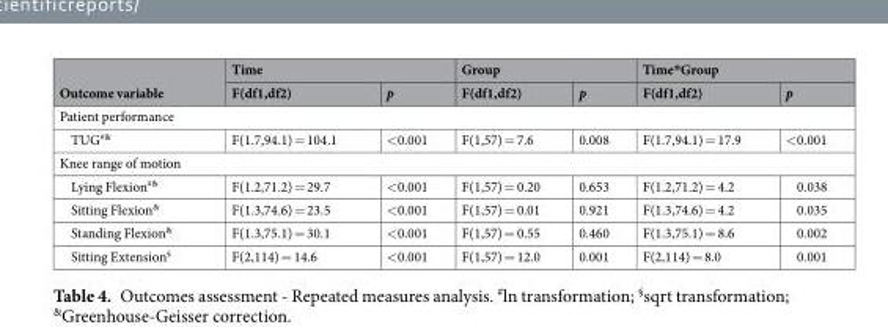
<table><thead><tr><td rowspan="2">Outcome variable</td><td colspan="2">Time</td><td colspan="2">Group</td><td colspan="2">Time*Group</td></tr><tr><td>F(df1,df2)</td><td>p</td><td>F(df1,df2)</td><td>p</td><td>F(df1,df2)</td><td>p</td></tr></thead><tbody><tr><td colspan="7">Patient performance</td></tr><tr><td>TUG<sup>#&amp;</sup></td><td>F(1.7,94.1) = 104.1</td><td>&lt;0.001</td><td>F(1,57) = 7.6</td><td>0.008</td><td>F(1.7,94.1) = 17.9</td><td>&lt;0.001</td></tr><tr><td colspan="7">Knee range of motion</td></tr><tr><td>Lying Flexion<sup>#&amp;</sup></td><td>F(1.2,71.2) = 29.7</td><td>&lt;0.001</td><td>F(1,57) = 0.20</td><td>0.653</td><td>F(1.2,71.2) = 4.2</td><td>0.038</td></tr><tr><td>Sitting Flexion<sup>&amp;</sup></td><td>F(1.3,74.6) = 23.5</td><td>&lt;0.001</td><td>F(1,57) = 0.01</td><td>0.921</td><td>F(1.3,74.6) = 4.2</td><td>0.035</td></tr><tr><td>Standing Flexion<sup>&amp;</sup></td><td>F(1.3,75.1) = 30.1</td><td>&lt;0.001</td><td>F(1,57) = 0.55</td><td>0.460</td><td>F(1.3,75.1) = 8.6</td><td>0.002</td></tr><tr><td>Sitting Extension<sup>§</sup></td><td>F(2,114) = 14.6</td><td>&lt;0.001</td><td>F(1,57) = 12.0</td><td>0.001</td><td>F(2,114) = 8.0</td><td>0.001</td></tr></tbody></table>